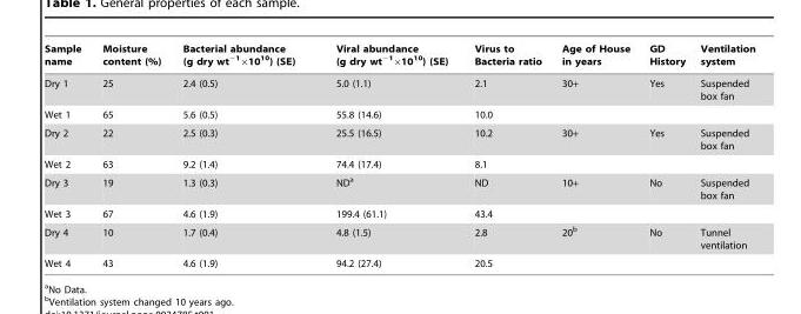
<table><thead><tr><td>Sample name</td><td>Moisture content (%)</td><td>Bacterial abundance (g dry wt<sup>−1</sup>×10<sup>10</sup>) (SE)</td><td>Viral abundance (g dry wt<sup>−1</sup>×10<sup>10</sup>) (SE)</td><td>Virus to Bacteria ratio</td><td>Age of House in years</td><td>GD History</td><td>Ventilation system</td></tr></thead><tbody><tr><td>Dry 1</td><td>25</td><td>2.4 (0.5)</td><td>5.0 (1.1)</td><td>2.1</td><td>30+</td><td>Yes</td><td>Suspended box fan</td></tr><tr><td>Wet 1</td><td>65</td><td>5.6 (0.5)</td><td>55.8 (14.6)</td><td>10.0</td><td></td><td></td><td></td></tr><tr><td>Dry 2</td><td>22</td><td>2.5 (0.3)</td><td>25.5 (16.5)</td><td>10.2</td><td>30+</td><td>Yes</td><td>Suspended box fan</td></tr><tr><td>Wet 2</td><td>63</td><td>9.2 (1.4)</td><td>74.4 (17.4)</td><td>8.1</td><td></td><td></td><td></td></tr><tr><td>Dry 3</td><td>19</td><td>1.3 (0.3)</td><td>ND<sup>a</sup></td><td>ND</td><td>10+</td><td>No</td><td>Suspended box fan</td></tr><tr><td>Wet 3</td><td>67</td><td>4.6 (1.9)</td><td>199.4 (61.1)</td><td>43.4</td><td></td><td></td><td></td></tr><tr><td>Dry 4</td><td>10</td><td>1.7 (0.4)</td><td>4.8 (1.5)</td><td>2.8</td><td>20<sup>b</sup></td><td>No</td><td>Tunnel ventilation</td></tr><tr><td>Wet 4</td><td>43</td><td>4.6 (1.9)</td><td>94.2 (27.4)</td><td>20.5</td><td></td><td></td><td></td></tr></tbody></table>